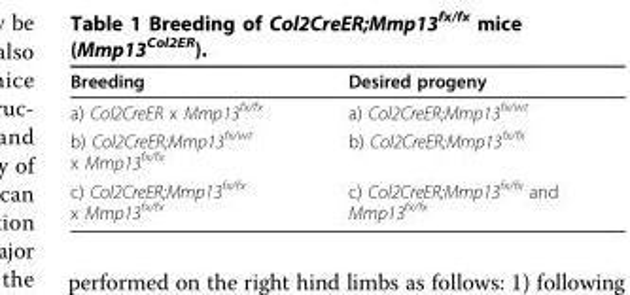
<table><thead><tr><td>Breeding</td><td>Desired progeny</td></tr></thead><tbody><tr><td>a) Col2CreER x Mmp13<sup>fx/fx</sup></td><td>a) Col2CreER;Mmp13<sup>fx/wt</sup></td></tr><tr><td>b) Col2CreER;Mmp13<sup>fx/wt</sup> x Mmp13<sup>fx/fx</sup></td><td>b) Col2CreER;Mmp13<sup>fx/fx</sup></td></tr><tr><td>c) Col2CreER;Mmp13<sup>fx/fx</sup> x Mmp13<sup>fx/fx</sup></td><td>c) Col2CreER;Mmp13<sup>fx/fx</sup> and Mmp13<sup>fx/fx</sup></td></tr></tbody></table>